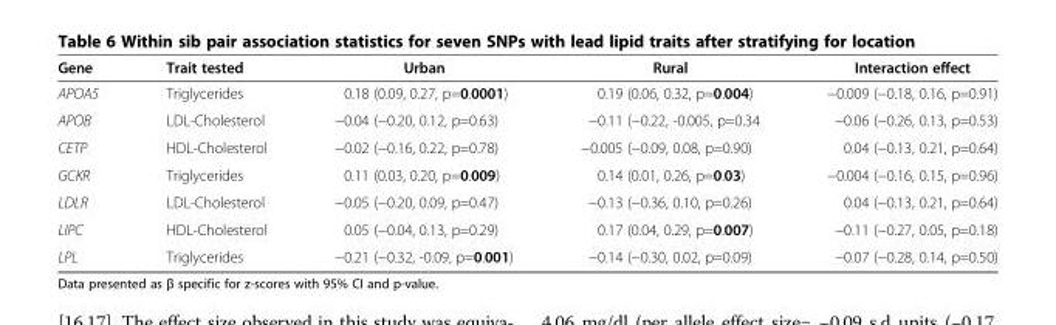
<table><thead><tr><td>Gene</td><td>Trait tested</td><td>Urban</td><td>Rural</td><td>Interaction effect</td></tr></thead><tbody><tr><td>APOA5</td><td>Triglycerides</td><td>0.18 (0.09, 0.27, p=0.0001)</td><td>0.19 (0.06, 0.32, p=0.004)</td><td>−0.009 (−0.18, 0.16, p=0.91)</td></tr><tr><td>APOB</td><td>LDL-Cholesterol</td><td>−0.04 (−0.20, 0.12, p=0.63)</td><td>−0.11 (−0.22, -0.005, p=0.34</td><td>−0.06 (−0.26, 0.13, p=0.53)</td></tr><tr><td>CETP</td><td>HDL-Cholesterol</td><td>−0.02 (−0.16, 0.22, p=0.78)</td><td>−0.005 (−0.09, 0.08, p=0.90)</td><td>0.04 (−0.13, 0.21, p=0.64)</td></tr><tr><td>GCKR</td><td>Triglycerides</td><td>0.11 (0.03, 0.20, p=0.009)</td><td>0.14 (0.01, 0.26, p=0.03)</td><td>−0.004 (−0.16, 0.15, p=0.96)</td></tr><tr><td>LDLR</td><td>LDL-Cholesterol</td><td>−0.05 (−0.20, 0.09, p=0.47)</td><td>−0.13 (−0.36, 0.10, p=0.26)</td><td>0.04 (−0.13, 0.21, p=0.64)</td></tr><tr><td>LIPC</td><td>HDL-Cholesterol</td><td>0.05 (−0.04, 0.13, p=0.29)</td><td>0.17 (0.04, 0.29, p=0.007)</td><td>−0.11 (−0.27, 0.05, p=0.18)</td></tr><tr><td>LPL</td><td>Triglycerides</td><td>−0.21 (−0.32, -0.09, p=0.001)</td><td>−0.14 (−0.30, 0.02, p=0.09)</td><td>−0.07 (−0.28, 0.14, p=0.50)</td></tr></tbody></table>